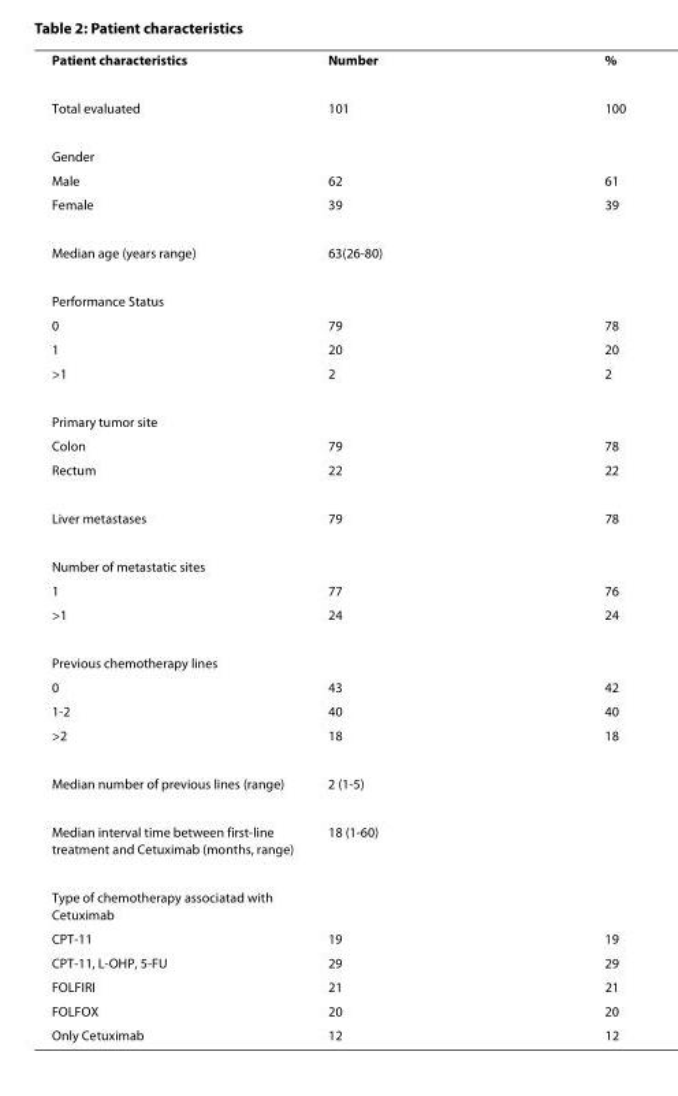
<table><tbody><tr><td>Patient characteristics</td><td>Number</td><td>%</td></tr><tr><td>Total evaluated</td><td>101</td><td>100</td></tr><tr><td colspan="3">Gender</td></tr><tr><td>Male</td><td>62</td><td>61</td></tr><tr><td>Female</td><td>39</td><td>39</td></tr><tr><td>Median age (years range)</td><td>63(26-80)</td><td></td></tr><tr><td colspan="3">Performance Status</td></tr><tr><td>0</td><td>79</td><td>78</td></tr><tr><td>1</td><td>20</td><td>20</td></tr><tr><td>&gt;1</td><td>2</td><td>2</td></tr><tr><td colspan="3">Primary tumor site</td></tr><tr><td>Colon</td><td>79</td><td>78</td></tr><tr><td>Rectum</td><td>22</td><td>22</td></tr><tr><td>Liver metastases</td><td>79</td><td>78</td></tr><tr><td colspan="3">Number of metastatic sites</td></tr><tr><td>1</td><td>77</td><td>76</td></tr><tr><td>&gt;1</td><td>24</td><td>24</td></tr><tr><td colspan="3">Previous chemotherapy lines</td></tr><tr><td>0</td><td>43</td><td>42</td></tr><tr><td>1-2</td><td>40</td><td>40</td></tr><tr><td>&gt;2</td><td>18</td><td>18</td></tr><tr><td>Median number of previous lines (range)</td><td>2 (1-5)</td><td></td></tr><tr><td>Median interval time between first-line treatment and Cetuximab (months, range)</td><td>18 (1-60)</td><td></td></tr><tr><td colspan="3">Type of chemotherapy associatad with Cetuximab</td></tr><tr><td>CPT-11</td><td>19</td><td>19</td></tr><tr><td>CPT-11, L-OHP, 5-FU</td><td>29</td><td>29</td></tr><tr><td>FOLFIRI</td><td>21</td><td>21</td></tr><tr><td>FOLFOX</td><td>20</td><td>20</td></tr><tr><td>Only Cetuximab</td><td>12</td><td>12</td></tr></tbody></table>